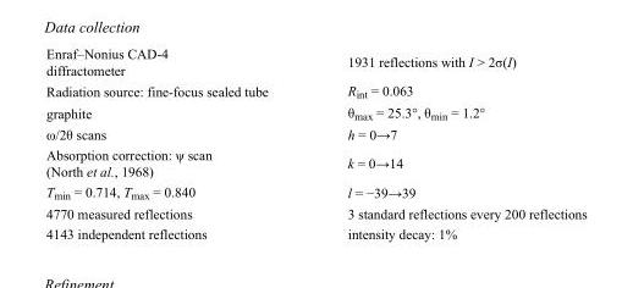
<table><tbody><tr><td>Enraf–Nonius CAD-4 diffractometer</td><td>1931 reflections with I &gt; 2σ(I)</td></tr><tr><td>Radiation source: fine-focus sealed tube</td><td>R<sub>int</sub> = 0.063</td></tr><tr><td>graphite</td><td>θ<sub>max</sub> = 25.3°, θ<sub>min</sub> = 1.2°</td></tr><tr><td>ω/2θ scans</td><td>h = 0→7</td></tr><tr><td>Absorption correction: ψ scan (North et al., 1968)</td><td>k = 0→14</td></tr><tr><td>T<sub>min</sub> = 0.714, T<sub>max</sub> = 0.840</td><td>l = −39→39</td></tr><tr><td>4770 measured reflections</td><td>3 standard reflections every 200 reflections</td></tr><tr><td>4143 independent reflections</td><td>intensity decay: 1%</td></tr></tbody></table>